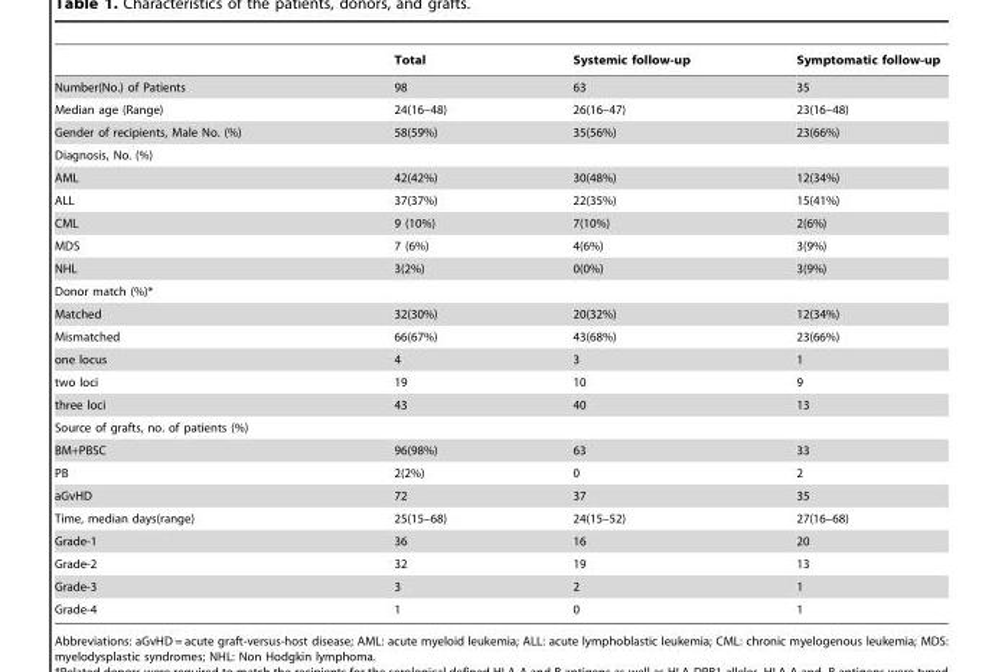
<table><thead><tr><td></td><td>Total</td><td>Systemic follow-up</td><td>Symptomatic follow-up</td></tr></thead><tbody><tr><td>Number(No.) of Patients</td><td>98</td><td>63</td><td>35</td></tr><tr><td>Median age (Range)</td><td>24(16–48)</td><td>26(16–47)</td><td>23(16–48)</td></tr><tr><td>Gender of recipients, Male No. (%)</td><td>58(59%)</td><td>35(56%)</td><td>23(66%)</td></tr><tr><td colspan="4">Diagnosis, No. (%)</td></tr><tr><td>AML</td><td>42(42%)</td><td>30(48%)</td><td>12(34%)</td></tr><tr><td>ALL</td><td>37(37%)</td><td>22(35%)</td><td>15(41%)</td></tr><tr><td>CML</td><td>9 (10%)</td><td>7(10%)</td><td>2(6%)</td></tr><tr><td>MDS</td><td>7 (6%)</td><td>4(6%)</td><td>3(9%)</td></tr><tr><td>NHL</td><td>3(2%)</td><td>0(0%)</td><td>3(9%)</td></tr><tr><td colspan="4">Donor match (%)*</td></tr><tr><td>Matched</td><td>32(30%)</td><td>20(32%)</td><td>12(34%)</td></tr><tr><td>Mismatched</td><td>66(67%)</td><td>43(68%)</td><td>23(66%)</td></tr><tr><td>one locus</td><td>4</td><td>3</td><td>1</td></tr><tr><td>two loci</td><td>19</td><td>10</td><td>9</td></tr><tr><td>three loci</td><td>43</td><td>40</td><td>13</td></tr><tr><td colspan="4">Source of grafts, no. of patients (%)</td></tr><tr><td>BM+PBSC</td><td>96(98%)</td><td>63</td><td>33</td></tr><tr><td>PB</td><td>2(2%)</td><td>0</td><td>2</td></tr><tr><td>aGvHD</td><td>72</td><td>37</td><td>35</td></tr><tr><td>Time, median days(range)</td><td>25(15–68)</td><td>24(15–52)</td><td>27(16–68)</td></tr><tr><td>Grade-1</td><td>36</td><td>16</td><td>20</td></tr><tr><td>Grade-2</td><td>32</td><td>19</td><td>13</td></tr><tr><td>Grade-3</td><td>3</td><td>2</td><td>1</td></tr><tr><td>Grade-4</td><td>1</td><td>0</td><td>1</td></tr></tbody></table>